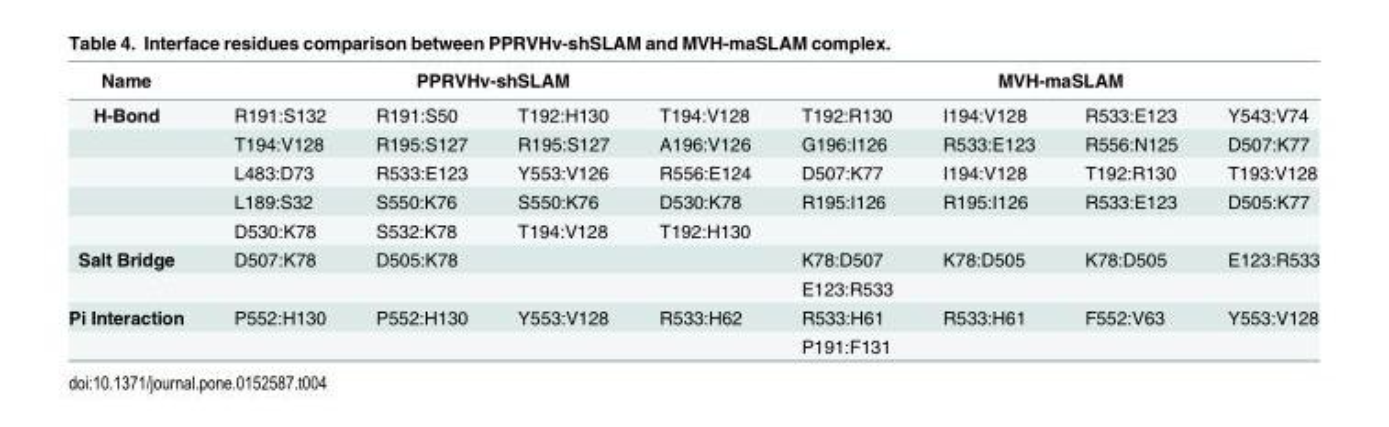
<table><thead><tr><td rowspan="2">Name H-Bond</td><td colspan="4">PPRVHv-shSLAM</td><td colspan="4">MVH-maSLAM</td></tr><tr><td>R191:S132</td><td>R191:S50</td><td>T192:H130</td><td>T194:V128</td><td>T192:R130</td><td>I194:V128</td><td>R533:E123</td><td>Y543:V74</td></tr></thead><tbody><tr><td></td><td>T194:V128</td><td>R195:S127</td><td>R195:S127</td><td>A196:V126</td><td>G196:I126</td><td>R533:E123</td><td>R556:N125</td><td>D507:K77</td></tr><tr><td></td><td>L483:D73</td><td>R533:E123</td><td>Y553:V126</td><td>R556:E124</td><td>D507:K77</td><td>I194:V128</td><td>T192:R130</td><td>T193:V128</td></tr><tr><td></td><td>L189:S32</td><td>S550:K76</td><td>S550:K76</td><td>D530:K78</td><td>R195:I126</td><td>R195:I126</td><td>R533:E123</td><td>D505:K77</td></tr><tr><td></td><td>D530:K78</td><td>S532:K78</td><td>T194:V128</td><td>T192:H130</td><td></td><td></td><td></td><td></td></tr><tr><td rowspan="2">Salt Bridge</td><td>D507:K78</td><td>D505:K78</td><td></td><td></td><td>K78:D507</td><td>K78:D505</td><td>K78:D505</td><td>E123:R533</td></tr><tr><td></td><td></td><td></td><td></td><td>E123:R533</td><td></td><td></td><td></td></tr><tr><td rowspan="2">Pi Interaction</td><td>P552:H130</td><td>P552:H130</td><td>Y553:V128</td><td>R533:H62</td><td>R533:H61</td><td>R533:H61</td><td>F552:V63</td><td>Y553:V128</td></tr><tr><td></td><td></td><td></td><td></td><td>P191:F131</td><td></td><td></td><td></td></tr></tbody></table>